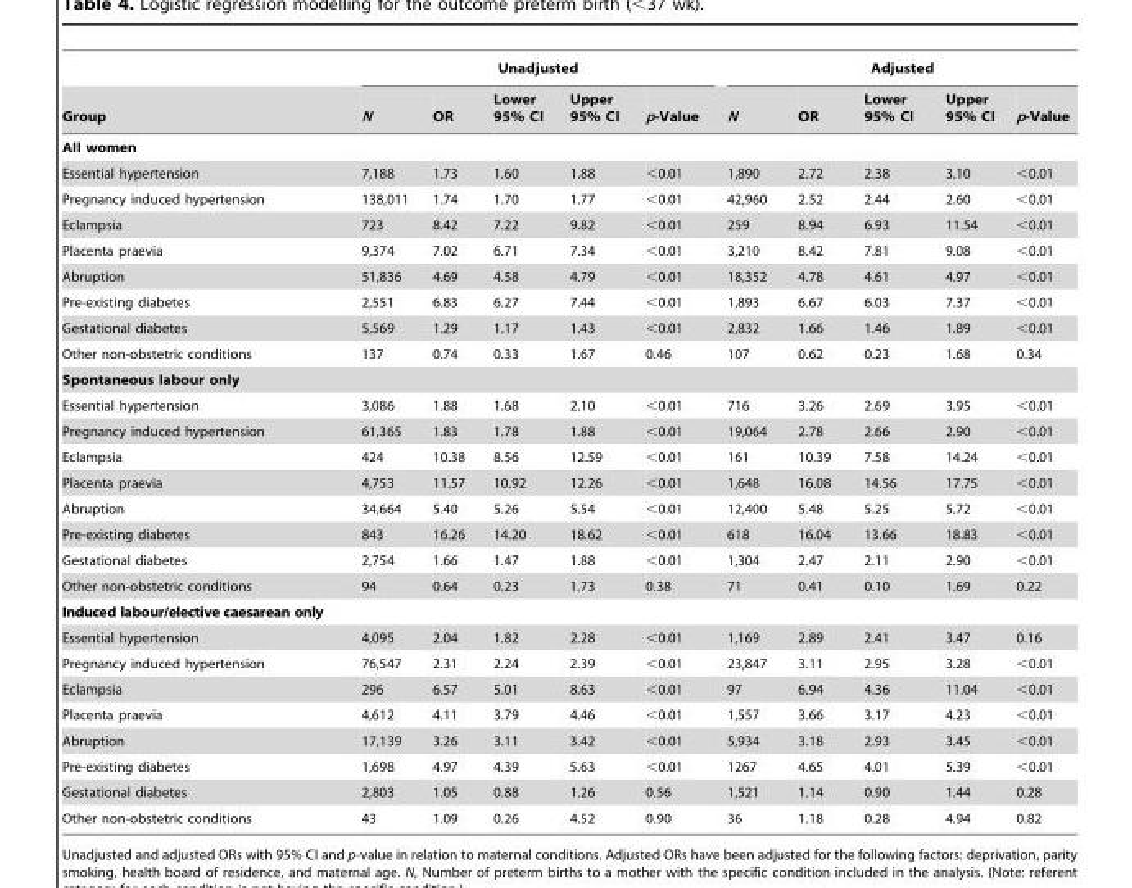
<table><thead><tr><td rowspan="2">Group</td><td colspan="5">Unadjusted</td><td colspan="5">Adjusted</td></tr><tr><td>N</td><td>OR</td><td>Lower 95% CI</td><td>Upper 95% CI</td><td>p-Value</td><td>N</td><td>OR</td><td>Lower 95% CI</td><td>Upper 95% CI</td><td>p-Value</td></tr></thead><tbody><tr><td colspan="11">All women</td></tr><tr><td>Essential hypertension</td><td>7,188</td><td>1.73</td><td>1.60</td><td>1.88</td><td>&lt;0.01</td><td>1,890</td><td>2.72</td><td>2.38</td><td>3.10</td><td>&lt;0.01</td></tr><tr><td>Pregnancy induced hypertension</td><td>138,011</td><td>1.74</td><td>1.70</td><td>1.77</td><td>&lt;0.01</td><td>42,960</td><td>2.52</td><td>2.44</td><td>2.60</td><td>&lt;0.01</td></tr><tr><td>Eclampsia</td><td>723</td><td>8.42</td><td>7.22</td><td>9.82</td><td>&lt;0.01</td><td>259</td><td>8.94</td><td>6.93</td><td>11.54</td><td>&lt;0.01</td></tr><tr><td>Placenta praevia</td><td>9,374</td><td>7.02</td><td>6.71</td><td>7.34</td><td>&lt;0.01</td><td>3,210</td><td>8.42</td><td>7.81</td><td>9.08</td><td>&lt;0.01</td></tr><tr><td>Abruption</td><td>51,836</td><td>4.69</td><td>4.58</td><td>4.79</td><td>&lt;0.01</td><td>18,352</td><td>4.78</td><td>4.61</td><td>4.97</td><td>&lt;0.01</td></tr><tr><td>Pre-existing diabetes</td><td>2,551</td><td>6.83</td><td>6.27</td><td>7.44</td><td>&lt;0.01</td><td>1,893</td><td>6.67</td><td>6.03</td><td>7.37</td><td>&lt;0.01</td></tr><tr><td>Gestational diabetes</td><td>5,569</td><td>1.29</td><td>1.17</td><td>1.43</td><td>&lt;0.01</td><td>2,832</td><td>1.66</td><td>1.46</td><td>1.89</td><td>&lt;0.01</td></tr><tr><td>Other non-obstetric conditions</td><td>137</td><td>0.74</td><td>0.33</td><td>1.67</td><td>0.46</td><td>107</td><td>0.62</td><td>0.23</td><td>1.68</td><td>0.34</td></tr><tr><td colspan="11">Spontaneous labour only</td></tr><tr><td>Essential hypertension</td><td>3,086</td><td>1.88</td><td>1.68</td><td>2.10</td><td>&lt;0.01</td><td>716</td><td>3.26</td><td>2.69</td><td>3.95</td><td>&lt;0.01</td></tr><tr><td>Pregnancy induced hypertension</td><td>61,365</td><td>1.83</td><td>1.78</td><td>1.88</td><td>&lt;0.01</td><td>19,064</td><td>2.78</td><td>2.66</td><td>2.90</td><td>&lt;0.01</td></tr><tr><td>Eclampsia</td><td>424</td><td>10.38</td><td>8.56</td><td>12.59</td><td>&lt;0.01</td><td>161</td><td>10.39</td><td>7.58</td><td>14.24</td><td>&lt;0.01</td></tr><tr><td>Placenta praevia</td><td>4,753</td><td>11.57</td><td>10.92</td><td>12.26</td><td>&lt;0.01</td><td>1,648</td><td>16.08</td><td>14.56</td><td>17.75</td><td>&lt;0.01</td></tr><tr><td>Abruption</td><td>34,664</td><td>5.40</td><td>5.26</td><td>5.54</td><td>&lt;0.01</td><td>12,400</td><td>5.48</td><td>5.25</td><td>5.72</td><td>&lt;0.01</td></tr><tr><td>Pre-existing diabetes</td><td>843</td><td>16.26</td><td>14.20</td><td>18.62</td><td>&lt;0.01</td><td>618</td><td>16.04</td><td>13.66</td><td>18.83</td><td>&lt;0.01</td></tr><tr><td>Gestational diabetes</td><td>2,754</td><td>1.66</td><td>1.47</td><td>1.88</td><td>&lt;0.01</td><td>1,304</td><td>2.47</td><td>2.11</td><td>2.90</td><td>&lt;0.01</td></tr><tr><td>Other non-obstetric conditions</td><td>94</td><td>0.64</td><td>0.23</td><td>1.73</td><td>0.38</td><td>71</td><td>0.41</td><td>0.10</td><td>1.69</td><td>0.22</td></tr><tr><td colspan="11">Induced labour/elective caesarean only</td></tr><tr><td>Essential hypertension</td><td>4,095</td><td>2.04</td><td>1.82</td><td>2.28</td><td>&lt;0.01</td><td>1,169</td><td>2.89</td><td>2.41</td><td>3.47</td><td>0.16</td></tr><tr><td>Pregnancy induced hypertension</td><td>76,547</td><td>2.31</td><td>2.24</td><td>2.39</td><td>&lt;0.01</td><td>23,847</td><td>3.11</td><td>2.95</td><td>3.28</td><td>&lt;0.01</td></tr><tr><td>Eclampsia</td><td>296</td><td>6.57</td><td>5.01</td><td>8.63</td><td>&lt;0.01</td><td>97</td><td>6.94</td><td>4.36</td><td>11.04</td><td>&lt;0.01</td></tr><tr><td>Placenta praevia</td><td>4,612</td><td>4.11</td><td>3.79</td><td>4.46</td><td>&lt;0.01</td><td>1,557</td><td>3.66</td><td>3.17</td><td>4.23</td><td>&lt;0.01</td></tr><tr><td>Abruption</td><td>17,139</td><td>3.26</td><td>3.11</td><td>3.42</td><td>&lt;0.01</td><td>5,934</td><td>3.18</td><td>2.93</td><td>3.45</td><td>&lt;0.01</td></tr><tr><td>Pre-existing diabetes</td><td>1,698</td><td>4.97</td><td>4.39</td><td>5.63</td><td>&lt;0.01</td><td>1267</td><td>4.65</td><td>4.01</td><td>5.39</td><td>&lt;0.01</td></tr><tr><td>Gestational diabetes</td><td>2,803</td><td>1.05</td><td>0.88</td><td>1.26</td><td>0.56</td><td>1,521</td><td>1.14</td><td>0.90</td><td>1.44</td><td>0.28</td></tr><tr><td>Other non-obstetric conditions</td><td>43</td><td>1.09</td><td>0.26</td><td>4.52</td><td>0.90</td><td>36</td><td>1.18</td><td>0.28</td><td>4.94</td><td>0.82</td></tr></tbody></table>